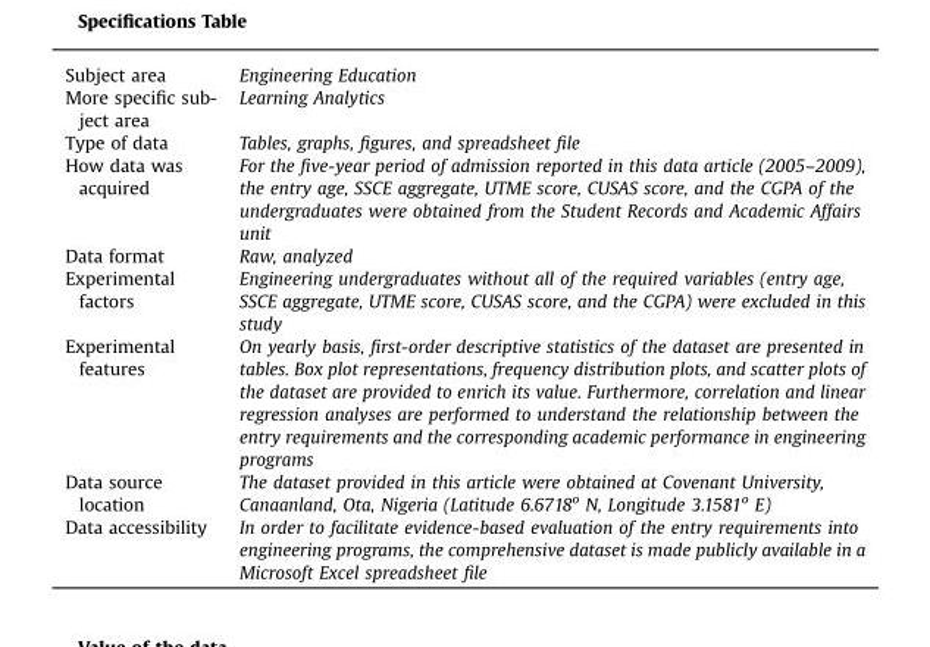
<table><tbody><tr><td>Subject area</td><td>Engineering Education</td></tr><tr><td>More specific sub- ject area</td><td>Learning Analytics</td></tr><tr><td>Type of data</td><td>Tables, graphs, figures, and spreadsheet file</td></tr><tr><td>How data was acquired</td><td>For the five-year period of admission reported in this data article (2005–2009), the entry age, SSCE aggregate, UTME score, CUSAS score, and the CGPA of the undergraduates were obtained from the Student Records and Academic Affairs unit</td></tr><tr><td>Data format</td><td>Raw, analyzed</td></tr><tr><td>Experimental factors</td><td>Engineering undergraduates without all of the required variables (entry age, SSCE aggregate, UTME score, CUSAS score, and the CGPA) were excluded in this study</td></tr><tr><td>Experimental features</td><td>On yearly basis, first-order descriptive statistics of the dataset are presented in tables. Box plot representations, frequency distribution plots, and scatter plots of the dataset are provided to enrich its value. Furthermore, correlation and linear regression analyses are performed to understand the relationship between the entry requirements and the corresponding academic performance in engineering programs</td></tr><tr><td>Data source location</td><td>The dataset provided in this article were obtained at Covenant University, Canaanland, Ota, Nigeria (Latitude 6.6718<sup>o</sup> N, Longitude 3.1581<sup>o</sup> E)</td></tr><tr><td>Data accessibility</td><td>In order to facilitate evidence-based evaluation of the entry requirements into engineering programs, the comprehensive dataset is made publicly available in a Microsoft Excel spreadsheet file</td></tr></tbody></table>